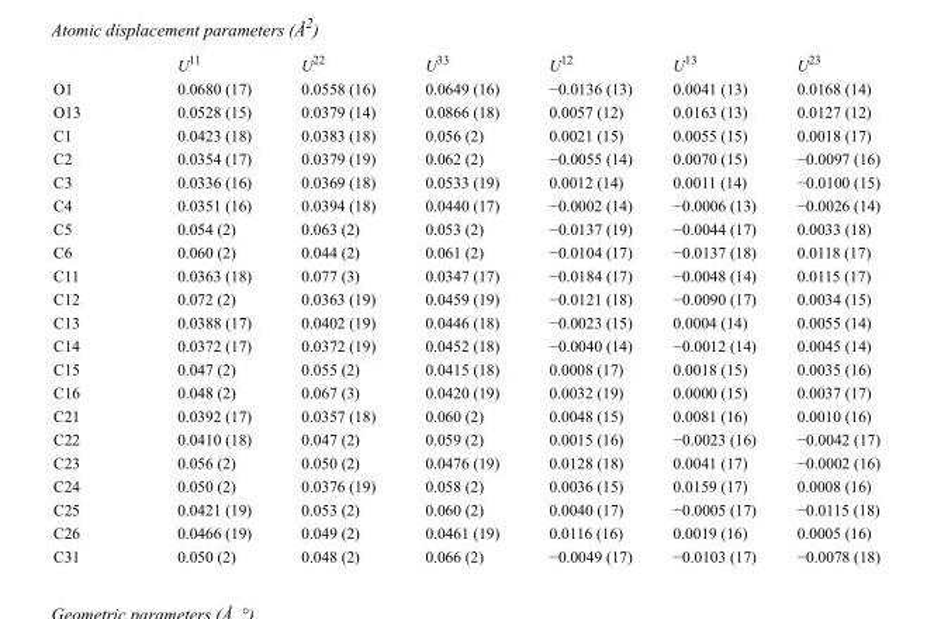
<table><thead><tr><td></td><td>U<sup>11</sup></td><td>U<sup>22</sup></td><td>U<sup>33</sup></td><td>U<sup>12</sup></td><td>U<sup>13</sup></td><td>U<sup>23</sup></td></tr></thead><tbody><tr><td>O1</td><td>0.0680 (17)</td><td>0.0558 (16)</td><td>0.0649 (16)</td><td>−0.0136 (13)</td><td>0.0041 (13)</td><td>0.0168 (14)</td></tr><tr><td>O13</td><td>0.0528 (15)</td><td>0.0379 (14)</td><td>0.0866 (18)</td><td>0.0057 (12)</td><td>0.0163 (13)</td><td>0.0127 (12)</td></tr><tr><td>C1</td><td>0.0423 (18)</td><td>0.0383 (18)</td><td>0.056 (2)</td><td>0.0021 (15)</td><td>0.0055 (15)</td><td>0.0018 (17)</td></tr><tr><td>C2</td><td>0.0354 (17)</td><td>0.0379 (19)</td><td>0.062 (2)</td><td>−0.0055 (14)</td><td>0.0070 (15)</td><td>−0.0097 (16)</td></tr><tr><td>C3</td><td>0.0336 (16)</td><td>0.0369 (18)</td><td>0.0533 (19)</td><td>0.0012 (14)</td><td>0.0011 (14)</td><td>−0.0100 (15)</td></tr><tr><td>C4</td><td>0.0351 (16)</td><td>0.0394 (18)</td><td>0.0440 (17)</td><td>−0.0002 (14)</td><td>−0.0006 (13)</td><td>−0.0026 (14)</td></tr><tr><td>C5</td><td>0.054 (2)</td><td>0.063 (2)</td><td>0.053 (2)</td><td>−0.0137 (19)</td><td>−0.0044 (17)</td><td>0.0033 (18)</td></tr><tr><td>C6</td><td>0.060 (2)</td><td>0.044 (2)</td><td>0.061 (2)</td><td>−0.0104 (17)</td><td>−0.0137 (18)</td><td>0.0118 (17)</td></tr><tr><td>C11</td><td>0.0363 (18)</td><td>0.077 (3)</td><td>0.0347 (17)</td><td>−0.0184 (17)</td><td>−0.0048 (14)</td><td>0.0115 (17)</td></tr><tr><td>C12</td><td>0.072 (2)</td><td>0.0363 (19)</td><td>0.0459 (19)</td><td>−0.0121 (18)</td><td>−0.0090 (17)</td><td>0.0034 (15)</td></tr><tr><td>C13</td><td>0.0388 (17)</td><td>0.0402 (19)</td><td>0.0446 (18)</td><td>−0.0023 (15)</td><td>0.0004 (14)</td><td>0.0055 (14)</td></tr><tr><td>C14</td><td>0.0372 (17)</td><td>0.0372 (19)</td><td>0.0452 (18)</td><td>−0.0040 (14)</td><td>−0.0012 (14)</td><td>0.0045 (14)</td></tr><tr><td>C15</td><td>0.047 (2)</td><td>0.055 (2)</td><td>0.0415 (18)</td><td>0.0008 (17)</td><td>0.0018 (15)</td><td>0.0035 (16)</td></tr><tr><td>C16</td><td>0.048 (2)</td><td>0.067 (3)</td><td>0.0420 (19)</td><td>0.0032 (19)</td><td>0.0000 (15)</td><td>0.0037 (17)</td></tr><tr><td>C21</td><td>0.0392 (17)</td><td>0.0357 (18)</td><td>0.060 (2)</td><td>0.0048 (15)</td><td>0.0081 (16)</td><td>0.0010 (16)</td></tr><tr><td>C22</td><td>0.0410 (18)</td><td>0.047 (2)</td><td>0.059 (2)</td><td>0.0015 (16)</td><td>−0.0023 (16)</td><td>−0.0042 (17)</td></tr><tr><td>C23</td><td>0.056 (2)</td><td>0.050 (2)</td><td>0.0476 (19)</td><td>0.0128 (18)</td><td>0.0041 (17)</td><td>−0.0002 (16)</td></tr><tr><td>C24</td><td>0.050 (2)</td><td>0.0376 (19)</td><td>0.058 (2)</td><td>0.0036 (15)</td><td>0.0159 (17)</td><td>0.0008 (16)</td></tr><tr><td>C25</td><td>0.0421 (19)</td><td>0.053 (2)</td><td>0.060 (2)</td><td>0.0040 (17)</td><td>−0.0005 (17)</td><td>−0.0115 (18)</td></tr><tr><td>C26</td><td>0.0466 (19)</td><td>0.049 (2)</td><td>0.0461 (19)</td><td>0.0116 (16)</td><td>0.0019 (16)</td><td>0.0005 (16)</td></tr><tr><td>C31</td><td>0.050 (2)</td><td>0.048 (2)</td><td>0.066 (2)</td><td>−0.0049 (17)</td><td>−0.0103 (17)</td><td>−0.0078 (18)</td></tr></tbody></table>